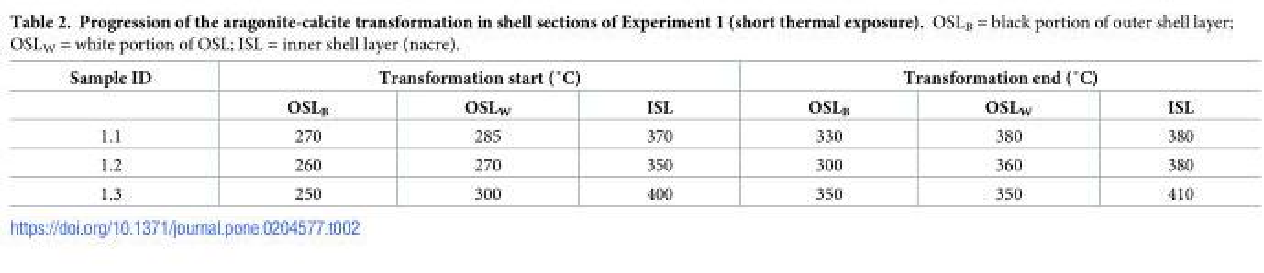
<table><thead><tr><td rowspan="2">Sample ID</td><td colspan="3">Transformation start (˚C)</td><td colspan="3">Transformation end (˚C)</td></tr><tr><td>OSL<sub>B</sub></td><td>OSL<sub>W</sub></td><td>ISL</td><td>OSL<sub>B</sub></td><td>OSL<sub>W</sub></td><td>ISL</td></tr></thead><tbody><tr><td>1.1</td><td>270</td><td>285</td><td>370</td><td>330</td><td>380</td><td>380</td></tr><tr><td>1.2</td><td>260</td><td>270</td><td>350</td><td>300</td><td>360</td><td>380</td></tr><tr><td>1.3</td><td>250</td><td>300</td><td>400</td><td>350</td><td>350</td><td>410</td></tr></tbody></table>